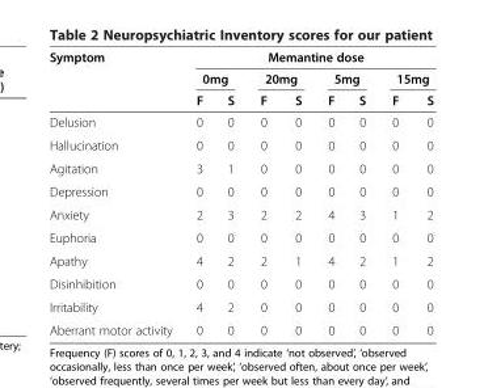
<table><thead><tr><td rowspan="3">Symptom</td><td colspan="8">Memantine dose</td></tr><tr><td colspan="2">0mg</td><td colspan="2">20mg</td><td colspan="2">5mg</td><td colspan="2">15mg</td></tr><tr><td>F</td><td>S</td><td>F</td><td>S</td><td>F</td><td>S</td><td>F</td><td>S</td></tr></thead><tbody><tr><td>Delusion</td><td>0</td><td>0</td><td>0</td><td>0</td><td>0</td><td>0</td><td>0</td><td>0</td></tr><tr><td>Hallucination</td><td>0</td><td>0</td><td>0</td><td>0</td><td>0</td><td>0</td><td>0</td><td>0</td></tr><tr><td>Agitation</td><td>3</td><td>1</td><td>0</td><td>0</td><td>0</td><td>0</td><td>0</td><td>0</td></tr><tr><td>Depression</td><td>0</td><td>0</td><td>0</td><td>0</td><td>0</td><td>0</td><td>0</td><td>0</td></tr><tr><td>Anxiety</td><td>2</td><td>3</td><td>2</td><td>2</td><td>4</td><td>3</td><td>1</td><td>2</td></tr><tr><td>Euphoria</td><td>0</td><td>0</td><td>0</td><td>0</td><td>0</td><td>0</td><td>0</td><td>0</td></tr><tr><td>Apathy</td><td>4</td><td>2</td><td>2</td><td>1</td><td>4</td><td>2</td><td>1</td><td>2</td></tr><tr><td>Disinhibition</td><td>0</td><td>0</td><td>0</td><td>0</td><td>0</td><td>0</td><td>0</td><td>0</td></tr><tr><td>Irritability</td><td>4</td><td>2</td><td>0</td><td>0</td><td>0</td><td>0</td><td>0</td><td>0</td></tr><tr><td>Aberrant motor activity</td><td>0</td><td>0</td><td>0</td><td>0</td><td>0</td><td>0</td><td>0</td><td>0</td></tr></tbody></table>